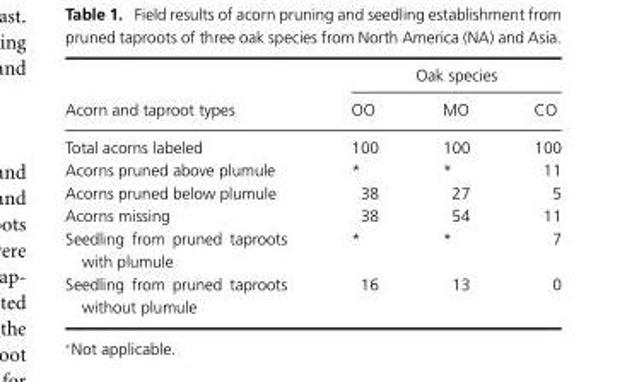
<table><thead><tr><td rowspan="2">Acorn and taproot types</td><td colspan="3">Oak species</td></tr><tr><td>OO</td><td>MO</td><td>CO</td></tr></thead><tbody><tr><td>Total acorns labeled</td><td>100</td><td>100</td><td>100</td></tr><tr><td>Acorns pruned above plumule</td><td>*</td><td>*</td><td>11</td></tr><tr><td>Acorns pruned below plumule</td><td>38</td><td>27</td><td>5</td></tr><tr><td>Acorns missing</td><td>38</td><td>54</td><td>11</td></tr><tr><td>Seedling from pruned taproots with plumule</td><td>*</td><td>*</td><td>7</td></tr><tr><td>Seedling from pruned taproots without plumule</td><td>16</td><td>13</td><td>0</td></tr></tbody></table>